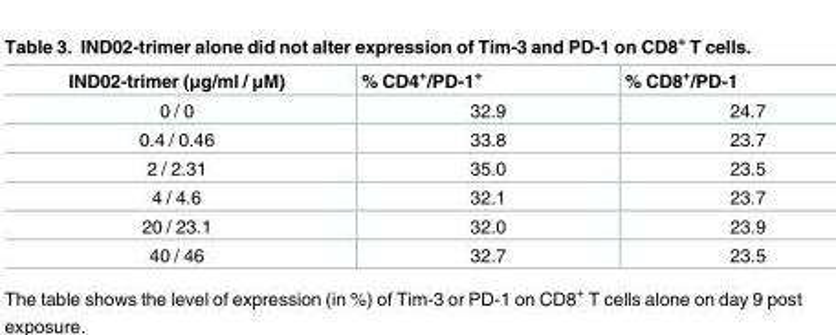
<table><thead><tr><td>IND02-trimer (μg/ml / μM)</td><td>% CD4<sup>+</sup>/PD-1<sup>+</sup></td><td>% CD8<sup>+</sup>/PD-1</td></tr></thead><tbody><tr><td>0 / 0</td><td>32.9</td><td>24.7</td></tr><tr><td>0.4 / 0.46</td><td>33.8</td><td>23.7</td></tr><tr><td>2 / 2.31</td><td>35.0</td><td>23.5</td></tr><tr><td>4 / 4.6</td><td>32.1</td><td>23.7</td></tr><tr><td>20 / 23.1</td><td>32.0</td><td>23.9</td></tr><tr><td>40 / 46</td><td>32.7</td><td>23.5</td></tr></tbody></table>